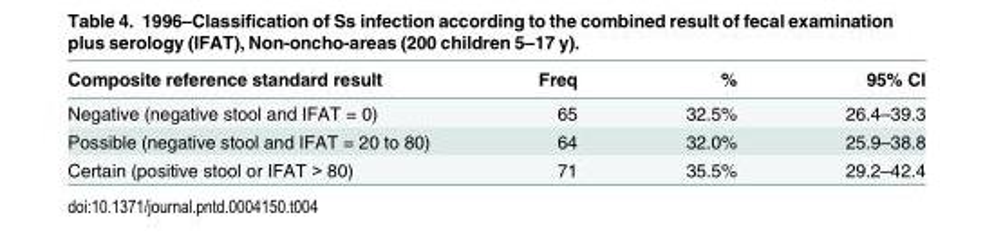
<table><thead><tr><td>Composite reference standard result</td><td>Freq</td><td>%</td><td>95% CI</td></tr></thead><tbody><tr><td>Negative (negative stool and IFAT = 0)</td><td>65</td><td>32.5%</td><td>26.4–39.3</td></tr><tr><td>Possible (negative stool and IFAT = 20 to 80)</td><td>64</td><td>32.0%</td><td>25.9–38.8</td></tr><tr><td>Certain (positive stool or IFAT &gt; 80)</td><td>71</td><td>35.5%</td><td>29.2–42.4</td></tr></tbody></table>